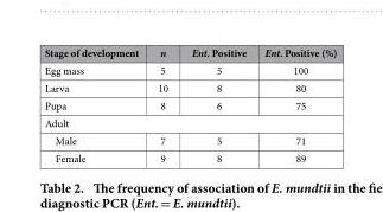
<table><thead><tr><td>Stage of development</td><td>n</td><td>Ent. Positive</td><td>Ent. Positive (%)</td></tr></thead><tbody><tr><td>Egg mass</td><td>5</td><td>5</td><td>100</td></tr><tr><td>Larva</td><td>10</td><td>8</td><td>80</td></tr><tr><td>Pupa</td><td>8</td><td>6</td><td>75</td></tr><tr><td colspan="4">Adult</td></tr><tr><td>Male</td><td>7</td><td>5</td><td>71</td></tr><tr><td>Female</td><td>9</td><td>8</td><td>89</td></tr></tbody></table>